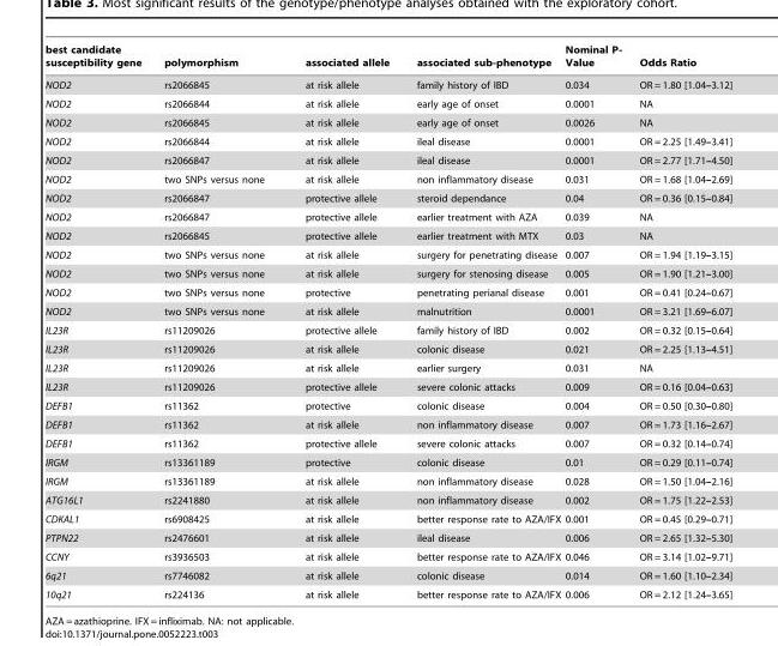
<table><thead><tr><td>best candidate susceptibility gene</td><td>polymorphism</td><td>associated allele</td><td>associated sub-phenotype</td><td>Nominal P- Value</td><td>Odds Ratio</td></tr></thead><tbody><tr><td>NOD2</td><td>rs2066845</td><td>at risk allele</td><td>family history of IBD</td><td>0.034</td><td>OR = 1.80 [1.04–3.12]</td></tr><tr><td>NOD2</td><td>rs2066844</td><td>at risk allele</td><td>early age of onset</td><td>0.0001</td><td>NA</td></tr><tr><td>NOD2</td><td>rs2066845</td><td>at risk allele</td><td>early age of onset</td><td>0.0026</td><td>NA</td></tr><tr><td>NOD2</td><td>rs2066844</td><td>at risk allele</td><td>ileal disease</td><td>0.0001</td><td>OR = 2.25 [1.49–3.41]</td></tr><tr><td>NOD2</td><td>rs2066847</td><td>at risk allele</td><td>ileal disease</td><td>0.0001</td><td>OR = 2.77 [1.71–4.50]</td></tr><tr><td>NOD2</td><td>two SNPs versus none</td><td>at risk allele</td><td>non inflammatory disease</td><td>0.031</td><td>OR = 1.68 [1.04–2.69]</td></tr><tr><td>NOD2</td><td>rs2066847</td><td>protective allele</td><td>steroid dependance</td><td>0.04</td><td>OR = 0.36 [0.15–0.84]</td></tr><tr><td>NOD2</td><td>rs2066847</td><td>protective allele</td><td>earlier treatment with AZA</td><td>0.039</td><td>NA</td></tr><tr><td>NOD2</td><td>rs2066845</td><td>protective allele</td><td>earlier treatment with MTX</td><td>0.03</td><td>NA</td></tr><tr><td>NOD2</td><td>two SNPs versus none</td><td>at risk allele</td><td>surgery for penetrating disease</td><td>0.007</td><td>OR = 1.94 [1.19–3.15]</td></tr><tr><td>NOD2</td><td>two SNPs versus none</td><td>at risk allele</td><td>surgery for stenosing disease</td><td>0.005</td><td>OR = 1.90 [1.21–3.00]</td></tr><tr><td>NOD2</td><td>two SNPs versus none</td><td>protective</td><td>penetrating perianal disease</td><td>0.001</td><td>OR = 0.41 [0.24–0.67]</td></tr><tr><td>NOD2</td><td>two SNPs versus none</td><td>at risk allele</td><td>malnutrition</td><td>0.0001</td><td>OR = 3.21 [1.69–6.07]</td></tr><tr><td>IL23R</td><td>rs11209026</td><td>protective allele</td><td>family history of IBD</td><td>0.002</td><td>OR = 0.32 [0.15–0.64]</td></tr><tr><td>IL23R</td><td>rs11209026</td><td>at risk allele</td><td>colonic disease</td><td>0.021</td><td>OR = 2.25 [1.13–4.51]</td></tr><tr><td>IL23R</td><td>rs11209026</td><td>at risk allele</td><td>earlier surgery</td><td>0.031</td><td>NA</td></tr><tr><td>IL23R</td><td>rs11209026</td><td>protective allele</td><td>severe colonic attacks</td><td>0.009</td><td>OR = 0.16 [0.04–0.63]</td></tr><tr><td>DEFB1</td><td>rs11362</td><td>protective</td><td>colonic disease</td><td>0.004</td><td>OR = 0.50 [0.30–0.80]</td></tr><tr><td>DEFB1</td><td>rs11362</td><td>at risk allele</td><td>non inflammatory disease</td><td>0.007</td><td>OR = 1.73 [1.16–2.67]</td></tr><tr><td>DEFB1</td><td>rs11362</td><td>protective allele</td><td>severe colonic attacks</td><td>0.007</td><td>OR = 0.32 [0.14–0.74]</td></tr><tr><td>IRGM</td><td>rs13361189</td><td>protective</td><td>colonic disease</td><td>0.01</td><td>OR = 0.29 [0.11–0.74]</td></tr><tr><td>IRGM</td><td>rs13361189</td><td>at risk allele</td><td>non inflammatory disease</td><td>0.028</td><td>OR = 1.50 [1.04–2.16]</td></tr><tr><td>ATG16L1</td><td>rs2241880</td><td>at risk allele</td><td>non inflammatory disease</td><td>0.002</td><td>OR = 1.75 [1.22–2.53]</td></tr><tr><td>CDKAL1</td><td>rs6908425</td><td>at risk allele</td><td>better response rate to AZA/IFX</td><td>0.001</td><td>OR = 0.45 [0.29–0.71]</td></tr><tr><td>PTPN22</td><td>rs2476601</td><td>at risk allele</td><td>ileal disease</td><td>0.006</td><td>OR = 2.65 [1.32–5.30]</td></tr><tr><td>CCNY</td><td>rs3936503</td><td>at risk allele</td><td>better response rate to AZA/IFX</td><td>0.046</td><td>OR = 3.14 [1.02–9.71]</td></tr><tr><td>6q21</td><td>rs7746082</td><td>at risk allele</td><td>colonic disease</td><td>0.014</td><td>OR = 1.60 [1.10–2.34]</td></tr><tr><td>10q21</td><td>rs224136</td><td>at risk allele</td><td>better response rate to AZA/IFX</td><td>0.006</td><td>OR = 2.12 [1.24–3.65]</td></tr></tbody></table>